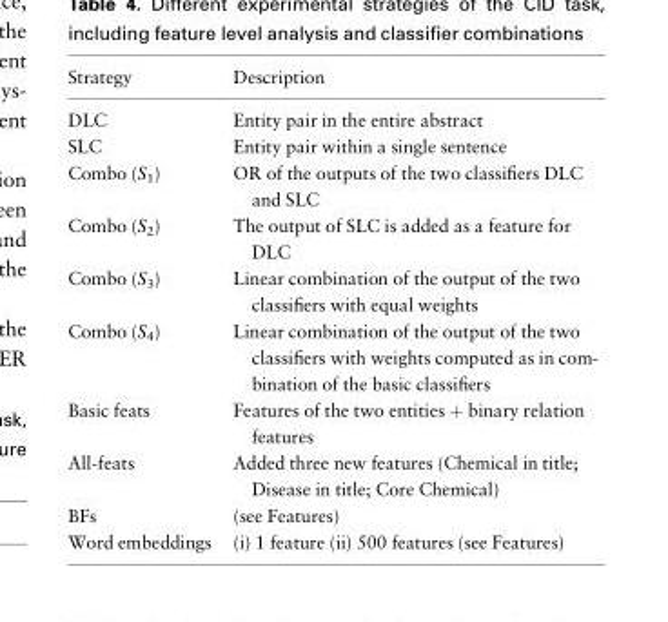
<table><thead><tr><td>Strategy</td><td>Description</td></tr></thead><tbody><tr><td>DLC</td><td>Entity pair in the entire abstract</td></tr><tr><td>SLC</td><td>Entity pair within a single sentence</td></tr><tr><td>Combo (S<sub>1</sub>)</td><td>OR of the outputs of the two classifiers DLC and SLC</td></tr><tr><td>Combo (S<sub>2</sub>)</td><td>The output of SLC is added as a feature for DLC</td></tr><tr><td>Combo (S<sub>3</sub>)</td><td>Linear combination of the output of the two classifiers with equal weights</td></tr><tr><td>Combo (S<sub>4</sub>)</td><td>Linear combination of the output of the two classifiers with weights computed as in com- bination of the basic classifiers</td></tr><tr><td>Basic feats</td><td>Features of the two entities + binary relation features</td></tr><tr><td>All-feats</td><td>Added three new features (Chemical in title; Disease in title; Core Chemical)</td></tr><tr><td>BFs</td><td>(see Features)</td></tr><tr><td>Word embeddings</td><td>(i) 1 feature (ii) 500 features (see Features)</td></tr></tbody></table>